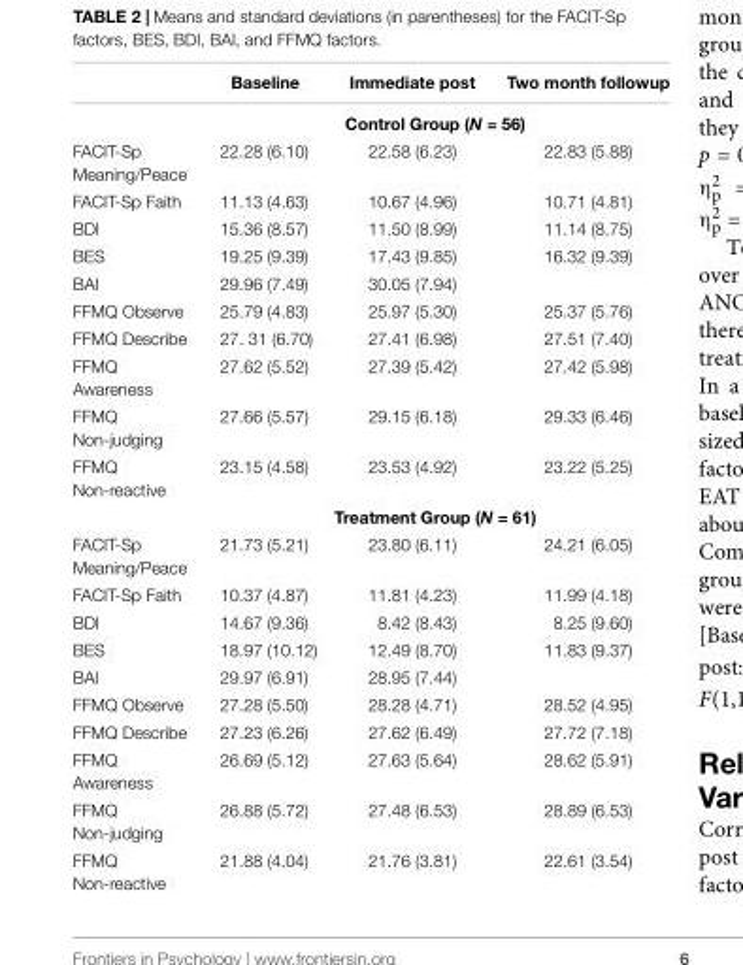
<table><thead><tr><td></td><td>Baseline</td><td>Immediate post</td><td>Two month followup</td></tr></thead><tbody><tr><td></td><td colspan="3">Control Group (N = 56)</td></tr><tr><td>FACIT-Sp Meaning/Peace</td><td>22.28 (6.10)</td><td>22.58 (6.23)</td><td>22.83 (5.88)</td></tr><tr><td>FACIT-Sp Faith</td><td>11.13 (4.63)</td><td>10.67 (4.96)</td><td>10.71 (4.81)</td></tr><tr><td>BDI</td><td>15.36 (8.57)</td><td>11.50 (8.99)</td><td>11.14 (8.75)</td></tr><tr><td>BES</td><td>19.25 (9.39)</td><td>17.43 (9.85)</td><td>16.32 (9.39)</td></tr><tr><td>BAI</td><td>29.96 (7.49)</td><td>30.05 (7.94)</td><td></td></tr><tr><td>FFMQ Observe</td><td>25.79 (4.83)</td><td>25.97 (5.30)</td><td>25.37 (5.76)</td></tr><tr><td>FFMQ Describe</td><td>27. 31 (6.70)</td><td>27.41 (6.98)</td><td>27.51 (7.40)</td></tr><tr><td>FFMQ Awareness</td><td>27.62 (5.52)</td><td>27.39 (5.42)</td><td>27.42 (5.98)</td></tr><tr><td>FFMQ Non-judging</td><td>27.66 (5.57)</td><td>29.15 (6.18)</td><td>29.33 (6.46)</td></tr><tr><td rowspan="2">FFMQ Non-reactive</td><td>23.15 (4.58)</td><td>23.53 (4.92)</td><td>23.22 (5.25)</td></tr><tr><td colspan="3">Treatment Group (N = 61)</td></tr><tr><td>FACIT-Sp Meaning/Peace</td><td>21.73 (5.21)</td><td>23.80 (6.11)</td><td>24.21 (6.05)</td></tr><tr><td>FACIT-Sp Faith</td><td>10.37 (4.87)</td><td>11.81 (4.23)</td><td>11.99 (4.18)</td></tr><tr><td>BDI</td><td>14.67 (9.36)</td><td>8.42 (8.43)</td><td>8.25 (9.60)</td></tr><tr><td>BES</td><td>18.97 (10.12)</td><td>12.49 (8.70)</td><td>11.83 (9.37)</td></tr><tr><td>BAI</td><td>29.97 (6.91)</td><td>28.95 (7.44)</td><td></td></tr><tr><td>FFMQ Observe</td><td>27.28 (5.50)</td><td>28.28 (4.71)</td><td>28.52 (4.95)</td></tr><tr><td>FFMQ Describe</td><td>27.23 (6.26)</td><td>27.62 (6.49)</td><td>27.72 (7.18)</td></tr><tr><td>FFMQ Awareness</td><td>26.69 (5.12)</td><td>27.63 (5.64)</td><td>28.62 (5.91)</td></tr><tr><td>FFMQ Non-judging</td><td>26.88 (5.72)</td><td>27.48 (6.53)</td><td>28.89 (6.53)</td></tr><tr><td>FFMQ Non-reactive</td><td>21.88 (4.04)</td><td>21.76 (3.81)</td><td>22.61 (3.54)</td></tr></tbody></table>